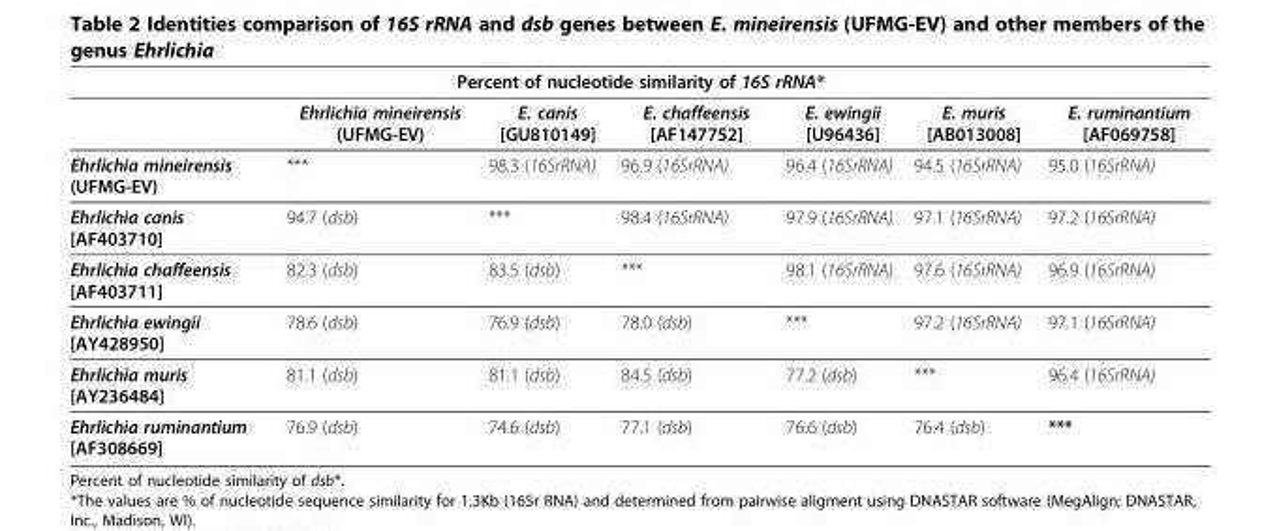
<table><thead><tr><td colspan="7">Percent of nucleotide similarity of 16S rRNA*</td></tr><tr><td></td><td>Ehrlichia mineirensis (UFMG-EV)</td><td>E. canis [GU810149]</td><td>E. chaffeensis [AF147752]</td><td>E. ewingii [U96436]</td><td>E. muris [AB013008]</td><td>E. ruminantium [AF069758]</td></tr></thead><tbody><tr><td>Ehrlichia mineirensis (UFMG-EV)</td><td>***</td><td>98.3 (16SrRNA)</td><td>96.9 (16SrRNA)</td><td>96.4 (16SrRNA)</td><td>94.5 (16SrRNA)</td><td>95.0 (16SrRNA)</td></tr><tr><td>Ehrlichia canis [AF403710]</td><td>94.7 (dsb)</td><td>***</td><td>98.4 (16SrRNA)</td><td>97.9 (16SrRNA)</td><td>97.1 (16SrRNA)</td><td>97.2 (16SrRNA)</td></tr><tr><td>Ehrlichia chaffeensis [AF403711]</td><td>82.3 (dsb)</td><td>83.5 (dsb)</td><td>***</td><td>98.1 (16SrRNA)</td><td>97.6 (16SrRNA)</td><td>96.9 (16SrRNA)</td></tr><tr><td>Ehrlichia ewingii [AY428950]</td><td>78.6 (dsb)</td><td>76.9 (dsb)</td><td>78.0 (dsb)</td><td>***</td><td>97.2 (16SrRNA)</td><td>97.1 (16SrRNA)</td></tr><tr><td>Ehrlichia muris [AY236484]</td><td>81.1 (dsb)</td><td>81.1 (dsb)</td><td>84.5 (dsb)</td><td>77.2 (dsb)</td><td>***</td><td>96.4 (16SrRNA)</td></tr><tr><td>Ehrlichia ruminantium [AF308669]</td><td>76.9 (dsb)</td><td>74.6 (dsb)</td><td>77.1 (dsb)</td><td>76.6 (dsb)</td><td>76.4 (dsb)</td><td>***</td></tr></tbody></table>